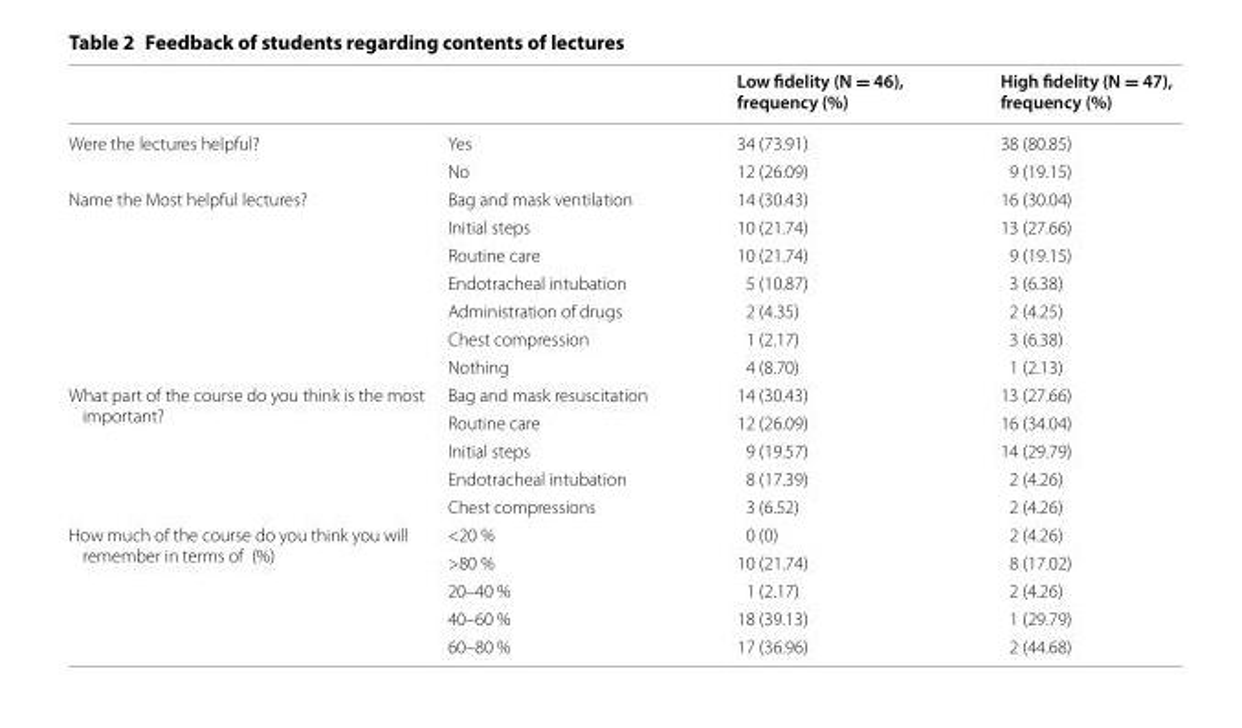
<table><thead><tr><td></td><td></td><td>Low fidelity (N = 46), frequency (%)</td><td>High fidelity (N = 47), frequency (%)</td></tr></thead><tbody><tr><td rowspan="2">Were the lectures helpful?</td><td>Yes</td><td>34 (73.91)</td><td>38 (80.85)</td></tr><tr><td>No</td><td>12 (26.09)</td><td>9 (19.15)</td></tr><tr><td rowspan="7">Name the Most helpful lectures?</td><td>Bag and mask ventilation</td><td>14 (30.43)</td><td>16 (30.04)</td></tr><tr><td>Initial steps</td><td>10 (21.74)</td><td>13 (27.66)</td></tr><tr><td>Routine care</td><td>10 (21.74)</td><td>9 (19.15)</td></tr><tr><td>Endotracheal intubation</td><td>5 (10.87)</td><td>3 (6.38)</td></tr><tr><td>Administration of drugs</td><td>2 (4.35)</td><td>2 (4.25)</td></tr><tr><td>Chest compression</td><td>1 (2.17)</td><td>3 (6.38)</td></tr><tr><td>Nothing</td><td>4 (8.70)</td><td>1 (2.13)</td></tr><tr><td rowspan="5">What part of the course do you think is the most important?</td><td>Bag and mask resuscitation</td><td>14 (30.43)</td><td>13 (27.66)</td></tr><tr><td>Routine care</td><td>12 (26.09)</td><td>16 (34.04)</td></tr><tr><td>Initial steps</td><td>9 (19.57)</td><td>14 (29.79)</td></tr><tr><td>Endotracheal intubation</td><td>8 (17.39)</td><td>2 (4.26)</td></tr><tr><td>Chest compressions</td><td>3 (6.52)</td><td>2 (4.26)</td></tr><tr><td rowspan="5">How much of the course do you think you will remember in terms of (%)</td><td>&lt;20 %</td><td>0 (0)</td><td>2 (4.26)</td></tr><tr><td>&gt;80 %</td><td>10 (21.74)</td><td>8 (17.02)</td></tr><tr><td>20–40 %</td><td>1 (2.17)</td><td>2 (4.26)</td></tr><tr><td>40–60 %</td><td>18 (39.13)</td><td>1 (29.79)</td></tr><tr><td>60–80 %</td><td>17 (36.96)</td><td>2 (44.68)</td></tr></tbody></table>